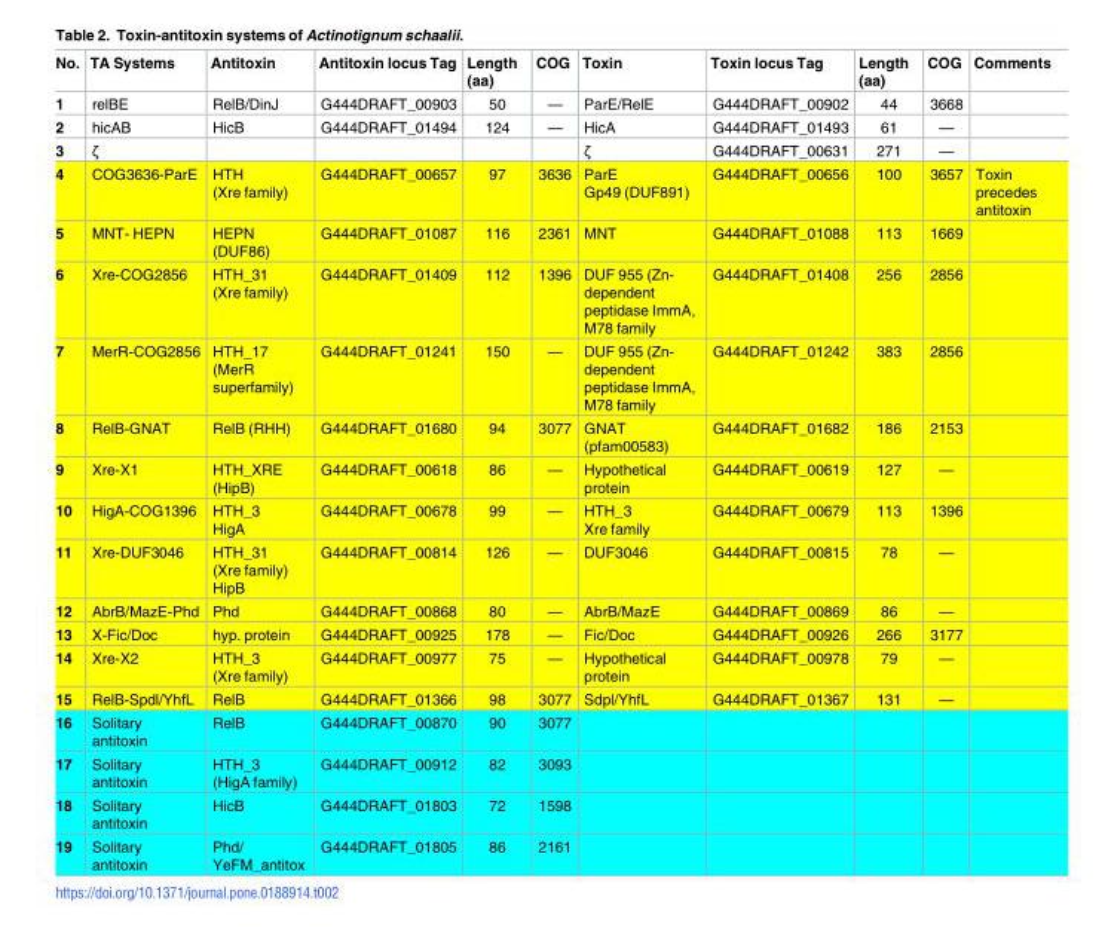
<table><thead><tr><td>No.</td><td>TA Systems</td><td>Antitoxin</td><td>Antitoxin locus Tag</td><td>Length (aa)</td><td>COG</td><td>Toxin</td><td>Toxin locus Tag</td><td>Length (aa)</td><td>COG</td><td>Comments</td></tr></thead><tbody><tr><td>1</td><td>relBE</td><td>RelB/DinJ</td><td>G444DRAFT_00903</td><td>50</td><td>—</td><td>ParE/RelE</td><td>G444DRAFT_00902</td><td>44</td><td>3668</td><td></td></tr><tr><td>2</td><td>hicAB</td><td>HicB</td><td>G444DRAFT_01494</td><td>124</td><td>—</td><td>HicA</td><td>G444DRAFT_01493</td><td>61</td><td>—</td><td></td></tr><tr><td>3</td><td>ζ</td><td></td><td></td><td></td><td></td><td>ζ</td><td>G444DRAFT_00631</td><td>271</td><td>—</td><td></td></tr><tr><td>4</td><td>COG3636-ParE</td><td>HTH (Xre family)</td><td>G444DRAFT_00657</td><td>97</td><td>3636</td><td>ParE Gp49 (DUF891)</td><td>G444DRAFT_00656</td><td>100</td><td>3657</td><td>Toxin precedes antitoxin</td></tr><tr><td>5</td><td>MNT- HEPN</td><td>HEPN (DUF86)</td><td>G444DRAFT_01087</td><td>116</td><td>2361</td><td>MNT</td><td>G444DRAFT_01088</td><td>113</td><td>1669</td><td></td></tr><tr><td>6</td><td>Xre-COG2856</td><td>HTH_31 (Xre family)</td><td>G444DRAFT_01409</td><td>112</td><td>1396</td><td>DUF 955 (Zn- dependent peptidase ImmA, M78 family</td><td>G444DRAFT_01408</td><td>256</td><td>2856</td><td></td></tr><tr><td>7</td><td>MerR-COG2856</td><td>HTH_17 (MerR superfamily)</td><td>G444DRAFT_01241</td><td>150</td><td>—</td><td>DUF 955 (Zn- dependent peptidase ImmA, M78 family</td><td>G444DRAFT_01242</td><td>383</td><td>2856</td><td></td></tr><tr><td>8</td><td>RelB-GNAT</td><td>RelB (RHH)</td><td>G444DRAFT_01680</td><td>94</td><td>3077</td><td>GNAT (pfam00583)</td><td>G444DRAFT_01682</td><td>186</td><td>2153</td><td></td></tr><tr><td>9</td><td>Xre-X1</td><td>HTH_XRE (HipB)</td><td>G444DRAFT_00618</td><td>86</td><td>—</td><td>Hypothetical protein</td><td>G444DRAFT_00619</td><td>127</td><td>—</td><td></td></tr><tr><td>10</td><td>HigA-COG1396</td><td>HTH_3 HigA</td><td>G444DRAFT_00678</td><td>99</td><td>—</td><td>HTH_3 Xre family</td><td>G444DRAFT_00679</td><td>113</td><td>1396</td><td></td></tr><tr><td>11</td><td>Xre-DUF3046</td><td>HTH_31 (Xre family) HipB</td><td>G444DRAFT_00814</td><td>126</td><td>—</td><td>DUF3046</td><td>G444DRAFT_00815</td><td>78</td><td>—</td><td></td></tr><tr><td>12</td><td>AbrB/MazE-Phd</td><td>Phd</td><td>G444DRAFT_00868</td><td>80</td><td>—</td><td>AbrB/MazE</td><td>G444DRAFT_00869</td><td>86</td><td>—</td><td></td></tr><tr><td>13</td><td>X-Fic/Doc</td><td>hyp. protein</td><td>G444DRAFT_00925</td><td>178</td><td>—</td><td>Fic/Doc</td><td>G444DRAFT_00926</td><td>266</td><td>3177</td><td></td></tr><tr><td>14</td><td>Xre-X2</td><td>HTH_3 (Xre family)</td><td>G444DRAFT_00977</td><td>75</td><td>—</td><td>Hypothetical protein</td><td>G444DRAFT_00978</td><td>79</td><td>—</td><td></td></tr><tr><td>15</td><td>RelB-Spdl/YhfL</td><td>RelB</td><td>G444DRAFT_01366</td><td>98</td><td>3077</td><td>Sdpl/YhfL</td><td>G444DRAFT_01367</td><td>131</td><td>—</td><td></td></tr><tr><td>16</td><td>Solitary antitoxin</td><td>RelB</td><td>G444DRAFT_00870</td><td>90</td><td>3077</td><td></td><td></td><td></td><td></td><td></td></tr><tr><td>17</td><td>Solitary antitoxin</td><td>HTH_3 (HigA family)</td><td>G444DRAFT_00912</td><td>82</td><td>3093</td><td></td><td></td><td></td><td></td><td></td></tr><tr><td>18</td><td>Solitary antitoxin</td><td>HicB</td><td>G444DRAFT_01803</td><td>72</td><td>1598</td><td></td><td></td><td></td><td></td><td></td></tr><tr><td>19</td><td>Solitary antitoxin</td><td>Phd/ YeFM_antitox</td><td>G444DRAFT_01805</td><td>86</td><td>2161</td><td></td><td></td><td></td><td></td><td></td></tr></tbody></table>